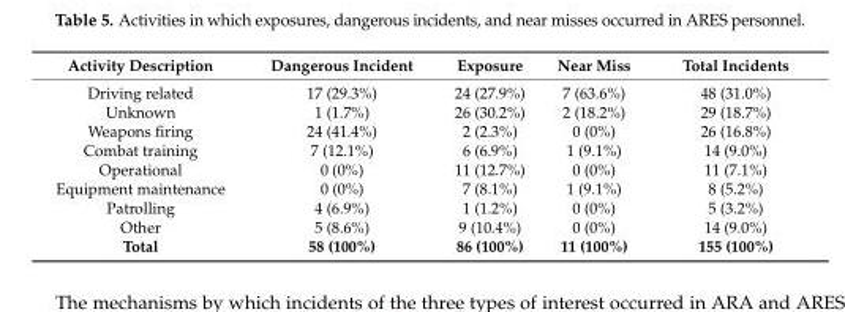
<table><thead><tr><td>Activity Description</td><td>Dangerous Incident</td><td>Exposure</td><td>Near Miss</td><td>Total Incidents</td></tr></thead><tbody><tr><td>Driving related</td><td>17 (29.3%)</td><td>24 (27.9%)</td><td>7 (63.6%)</td><td>48 (31.0%)</td></tr><tr><td>Unknown</td><td>1 (1.7%)</td><td>26 (30.2%)</td><td>2 (18.2%)</td><td>29 (18.7%)</td></tr><tr><td>Weapons firing</td><td>24 (41.4%)</td><td>2 (2.3%)</td><td>0 (0%)</td><td>26 (16.8%)</td></tr><tr><td>Combat training</td><td>7 (12.1%)</td><td>6 (6.9%)</td><td>1 (9.1%)</td><td>14 (9.0%)</td></tr><tr><td>Operational</td><td>0 (0%)</td><td>11 (12.7%)</td><td>0 (0%)</td><td>11 (7.1%)</td></tr><tr><td>Equipment maintenance</td><td>0 (0%)</td><td>7 (8.1%)</td><td>1 (9.1%)</td><td>8 (5.2%)</td></tr><tr><td>Patrolling</td><td>4 (6.9%)</td><td>1 (1.2%)</td><td>0 (0%)</td><td>5 (3.2%)</td></tr><tr><td>Other</td><td>5 (8.6%)</td><td>9 (10.4%)</td><td>0 (0%)</td><td>14 (9.0%)</td></tr><tr><td>Total</td><td>58 (100%)</td><td>86 (100%)</td><td>11 (100%)</td><td>155 (100%)</td></tr></tbody></table>